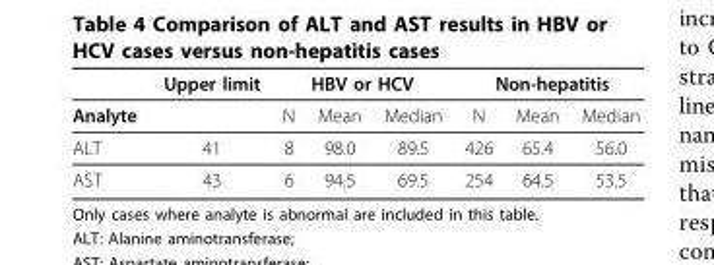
<table><thead><tr><td rowspan="2">Analyte</td><td rowspan="2">Upper limit</td><td colspan="3">HBV or HCV</td><td colspan="3">Non-hepatitis</td></tr><tr><td>N</td><td>Mean</td><td>Median</td><td>N</td><td>Mean</td><td>Median</td></tr></thead><tbody><tr><td>ALT</td><td>41</td><td>8</td><td>98.0</td><td>89.5</td><td>426</td><td>65.4</td><td>56.0</td></tr><tr><td>AST</td><td>43</td><td>6</td><td>94.5</td><td>69.5</td><td>254</td><td>64.5</td><td>53.5</td></tr></tbody></table>